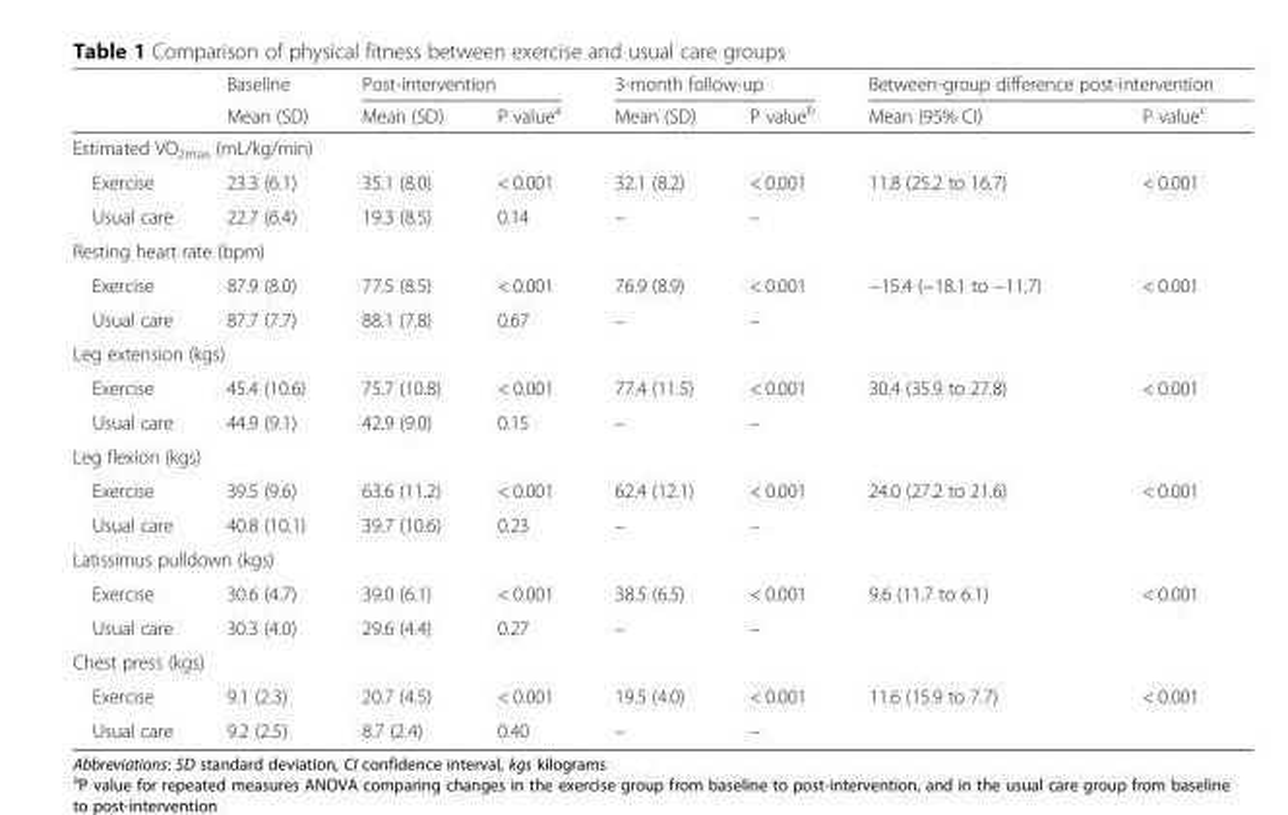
<table><thead><tr><td rowspan="2"></td><td rowspan="2">Baseline Mean (SD)</td><td colspan="2">Post-intervention</td><td colspan="2">3-month follow-up</td><td colspan="2">Between-group difference post-intervention</td></tr><tr><td>Mean (SD)</td><td>P value<sup>a</sup></td><td>Mean (SD)</td><td>P value<sup>b</sup></td><td>Mean (95% CI)</td><td>P value<sup>c</sup></td></tr></thead><tbody><tr><td colspan="8">Estimated VO<sub>2max</sub> (mL/kg/min)</td></tr><tr><td>Exercise</td><td>23.3 (6.1)</td><td>35.1 (8.0)</td><td>&lt; 0.001</td><td>32.1 (8.2)</td><td>&lt; 0.001</td><td rowspan="2">11.8 (25.2 to 16.7)</td><td rowspan="2">&lt; 0.001</td></tr><tr><td>Usual care</td><td>22.7 (6.4)</td><td>19.3 (8.5)</td><td>0.14</td><td>–</td><td>–</td></tr><tr><td colspan="8">Resting heart rate (bpm)</td></tr><tr><td>Exercise</td><td>87.9 (8.0)</td><td>77.5 (8.5)</td><td>&lt; 0.001</td><td>76.9 (8.9)</td><td>&lt; 0.001</td><td rowspan="2">−15.4 (−18.1 to −11.7)</td><td rowspan="2">&lt; 0.001</td></tr><tr><td>Usual care</td><td>87.7 (7.7)</td><td>88.1 (7.8)</td><td>0.67</td><td>–</td><td>–</td></tr><tr><td colspan="8">Leg extension (kgs)</td></tr><tr><td>Exercise</td><td>45.4 (10.6)</td><td>75.7 (10.8)</td><td>&lt; 0.001</td><td>77.4 (11.5)</td><td>&lt; 0.001</td><td rowspan="2">30.4 (35.9 to 27.8)</td><td rowspan="2">&lt; 0.001</td></tr><tr><td>Usual care</td><td>44.9 (9.1)</td><td>42.9 (9.0)</td><td>0.15</td><td>–</td><td>–</td></tr><tr><td colspan="8">Leg flexion (kgs)</td></tr><tr><td>Exercise</td><td>39.5 (9.6)</td><td>63.6 (11.2)</td><td>&lt; 0.001</td><td>62.4 (12.1)</td><td>&lt; 0.001</td><td rowspan="2">24.0 (27.2 to 21.6)</td><td rowspan="2">&lt; 0.001</td></tr><tr><td>Usual care</td><td>40.8 (10.1)</td><td>39.7 (10.6)</td><td>0.23</td><td>–</td><td>–</td></tr><tr><td colspan="8">Latissimus pulldown (kgs)</td></tr><tr><td>Exercise</td><td>30.6 (4.7)</td><td>39.0 (6.1)</td><td>&lt; 0.001</td><td>38.5 (6.5)</td><td>&lt; 0.001</td><td rowspan="2">9.6 (11.7 to 6.1)</td><td rowspan="2">&lt; 0.001</td></tr><tr><td>Usual care</td><td>30.3 (4.0)</td><td>29.6 (4.4)</td><td>0.27</td><td>–</td><td>–</td></tr><tr><td colspan="8">Chest press (kgs)</td></tr><tr><td>Exercise</td><td>9.1 (2.3)</td><td>20.7 (4.5)</td><td>&lt; 0.001</td><td>19.5 (4.0)</td><td>&lt; 0.001</td><td rowspan="2">11.6 (15.9 to 7.7)</td><td rowspan="2">&lt; 0.001</td></tr><tr><td>Usual care</td><td>9.2 (2.5)</td><td>8.7 (2.4)</td><td>0.40</td><td>–</td><td>–</td></tr></tbody></table>